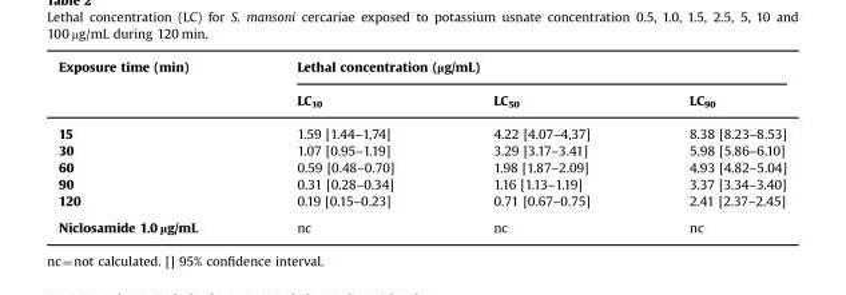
<table><thead><tr><td rowspan="2">Exposure time (min)</td><td colspan="3">Lethal concentration (µg/mL)</td></tr><tr><td>LC<sub>10</sub></td><td>LC<sub>50</sub></td><td>LC<sub>90</sub></td></tr></thead><tbody><tr><td>15</td><td>1.59 [1.44–1,74]</td><td>4.22 [4.07–4,37]</td><td>8.38 [8.23–8.53]</td></tr><tr><td>30</td><td>1.07 [0.95–1.19]</td><td>3.29 [3.17–3.41]</td><td>5.98 [5.86–6.10]</td></tr><tr><td>60</td><td>0.59 [0.48–0.70]</td><td>1.98 [1.87–2.09]</td><td>4.93 [4.82–5.04]</td></tr><tr><td>90</td><td>0.31 [0.28–0.34]</td><td>1.16 [1.13–1.19]</td><td>3.37 [3.34–3.40]</td></tr><tr><td>120</td><td>0.19 [0.15–0.23]</td><td>0.71 [0.67–0.75]</td><td>2.41 [2.37–2.45]</td></tr><tr><td>Niclosamide 1.0 µg/mL</td><td>nc</td><td>nc</td><td>nc</td></tr></tbody></table>